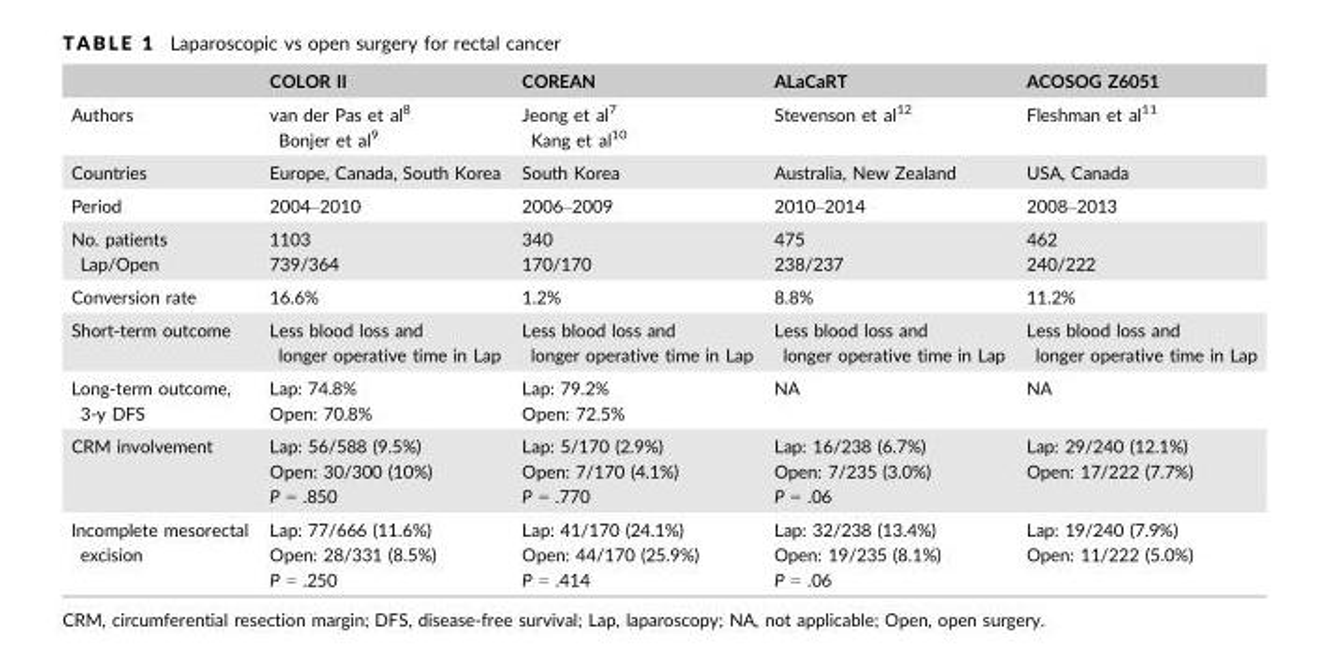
<table><thead><tr><td></td><td>COLOR II</td><td>COREAN</td><td>ALaCaRT</td><td>ACOSOG Z6051</td></tr></thead><tbody><tr><td>Authors</td><td>van der Pas et al<sup>8</sup> Bonjer et al<sup>9</sup></td><td>Jeong et al<sup>7</sup> Kang et al<sup>10</sup></td><td>Stevenson et al<sup>12</sup></td><td>Fleshman et al<sup>11</sup></td></tr><tr><td>Countries</td><td>Europe, Canada, South Korea</td><td>South Korea</td><td>Australia, New Zealand</td><td>USA, Canada</td></tr><tr><td>Period</td><td>2004–2010</td><td>2006–2009</td><td>2010–2014</td><td>2008–2013</td></tr><tr><td>No. patients Lap/Open</td><td>1103 739/364</td><td>340 170/170</td><td>475 238/237</td><td>462 240/222</td></tr><tr><td>Conversion rate</td><td>16.6%</td><td>1.2%</td><td>8.8%</td><td>11.2%</td></tr><tr><td>Short-term outcome</td><td>Less blood loss and longer operative time in Lap</td><td>Less blood loss and longer operative time in Lap</td><td>Less blood loss and longer operative time in Lap</td><td>Less blood loss and longer operative time in Lap</td></tr><tr><td>Long-term outcome, 3-y DFS</td><td>Lap: 74.8% Open: 70.8%</td><td>Lap: 79.2% Open: 72.5%</td><td>NA</td><td>NA</td></tr><tr><td>CRM involvement</td><td>Lap: 56/588 (9.5%) Open: 30/300 (10%) P = .850</td><td>Lap: 5/170 (2.9%) Open: 7/170 (4.1%) P = .770</td><td>Lap: 16/238 (6.7%) Open: 7/235 (3.0%) P = .06</td><td>Lap: 29/240 (12.1%) Open: 17/222 (7.7%)</td></tr><tr><td>Incomplete mesorectal excision</td><td>Lap: 77/666 (11.6%) Open: 28/331 (8.5%) P = .250</td><td>Lap: 41/170 (24.1%) Open: 44/170 (25.9%) P = .414</td><td>Lap: 32/238 (13.4%) Open: 19/235 (8.1%) P = .06</td><td>Lap: 19/240 (7.9%) Open: 11/222 (5.0%)</td></tr></tbody></table>